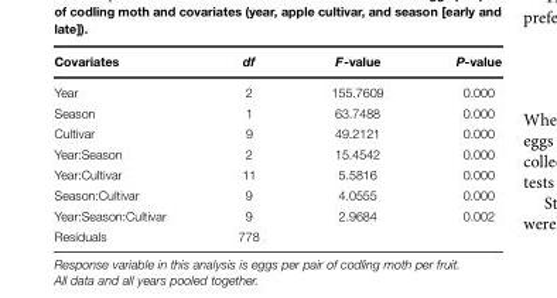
<table><thead><tr><td>Covariates</td><td>df</td><td>F-value</td><td>P-value</td></tr></thead><tbody><tr><td>Year</td><td>2</td><td>155.7609</td><td>0.000</td></tr><tr><td>Season</td><td>1</td><td>63.7488</td><td>0.000</td></tr><tr><td>Cultivar</td><td>9</td><td>49.2121</td><td>0.000</td></tr><tr><td>Year:Season</td><td>2</td><td>15.4542</td><td>0.000</td></tr><tr><td>Year:Cultivar</td><td>11</td><td>5.5816</td><td>0.000</td></tr><tr><td>Season:Cultivar</td><td>9</td><td>4.0555</td><td>0.000</td></tr><tr><td>Year:Season:Cultivar</td><td>9</td><td>2.9684</td><td>0.002</td></tr><tr><td>Residuals</td><td>778</td><td></td><td></td></tr></tbody></table>